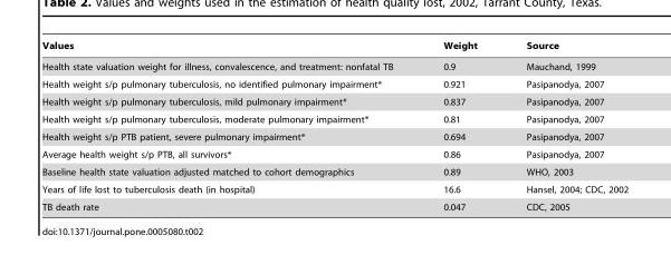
<table><thead><tr><td>Values</td><td>Weight</td><td>Source</td></tr></thead><tbody><tr><td>Health state valuation weight for illness, convalescence, and treatment: nonfatal TB</td><td>0.9</td><td>Mauchand, 1999</td></tr><tr><td>Health weight s/p pulmonary tuberculosis, no identified pulmonary impairment*</td><td>0.921</td><td>Pasipanodya, 2007</td></tr><tr><td>Health weight s/p pulmonary tuberculosis, mild pulmonary impairment*</td><td>0.837</td><td>Pasipanodya, 2007</td></tr><tr><td>Health weight s/p pulmonary tuberculosis, moderate pulmonary impairment*</td><td>0.81</td><td>Pasipanodya, 2007</td></tr><tr><td>Health weight s/p PTB patient, severe pulmonary impairment*</td><td>0.694</td><td>Pasipanodya, 2007</td></tr><tr><td>Average health weight s/p PTB, all survivors*</td><td>0.86</td><td>Pasipanodya, 2007</td></tr><tr><td>Baseline health state valuation adjusted matched to cohort demographics</td><td>0.89</td><td>WHO, 2003</td></tr><tr><td>Years of life lost to tuberculosis death (in hospital)</td><td>16.6</td><td>Hansel, 2004; CDC, 2002</td></tr><tr><td>TB death rate</td><td>0.047</td><td>CDC, 2005</td></tr></tbody></table>